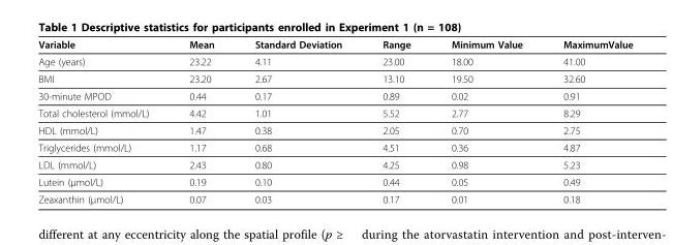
<table><thead><tr><td>Variable</td><td>Mean</td><td>Standard Deviation</td><td>Range</td><td>Minimum Value</td><td>MaximumValue</td></tr></thead><tbody><tr><td>Age (years)</td><td>23.22</td><td>4.11</td><td>23.00</td><td>18.00</td><td>41.00</td></tr><tr><td>BMI</td><td>23.20</td><td>2.67</td><td>13.10</td><td>19.50</td><td>32.60</td></tr><tr><td>30-minute MPOD</td><td>0.44</td><td>0.17</td><td>0.89</td><td>0.02</td><td>0.91</td></tr><tr><td>Total cholesterol (mmol/L)</td><td>4.42</td><td>1.01</td><td>5.52</td><td>2.77</td><td>8.29</td></tr><tr><td>HDL (mmol/L)</td><td>1.47</td><td>0.38</td><td>2.05</td><td>0.70</td><td>2.75</td></tr><tr><td>Triglycerides (mmol/L)</td><td>1.17</td><td>0.68</td><td>4.51</td><td>0.36</td><td>4.87</td></tr><tr><td>LDL (mmol/L)</td><td>2.43</td><td>0.80</td><td>4.25</td><td>0.98</td><td>5.23</td></tr><tr><td>Lutein (μmol/L)</td><td>0.19</td><td>0.10</td><td>0.44</td><td>0.05</td><td>0.49</td></tr><tr><td>Zeaxanthin (μmol/L)</td><td>0.07</td><td>0.03</td><td>0.17</td><td>0.01</td><td>0.18</td></tr></tbody></table>